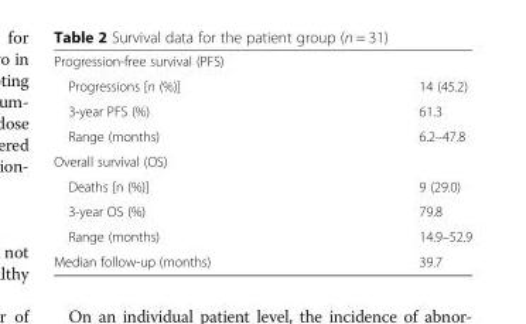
<table><tbody><tr><td colspan="2">Progression-free survival (PFS)</td></tr><tr><td>Progressions [n (%)]</td><td>14 (45.2)</td></tr><tr><td>3-year PFS (%)</td><td>61.3</td></tr><tr><td>Range (months)</td><td>6.2–47.8</td></tr><tr><td colspan="2">Overall survival (OS)</td></tr><tr><td>Deaths [n (%)]</td><td>9 (29.0)</td></tr><tr><td>3-year OS (%)</td><td>79.8</td></tr><tr><td>Range (months)</td><td>14.9–52.9</td></tr><tr><td>Median follow-up (months)</td><td>39.7</td></tr></tbody></table>